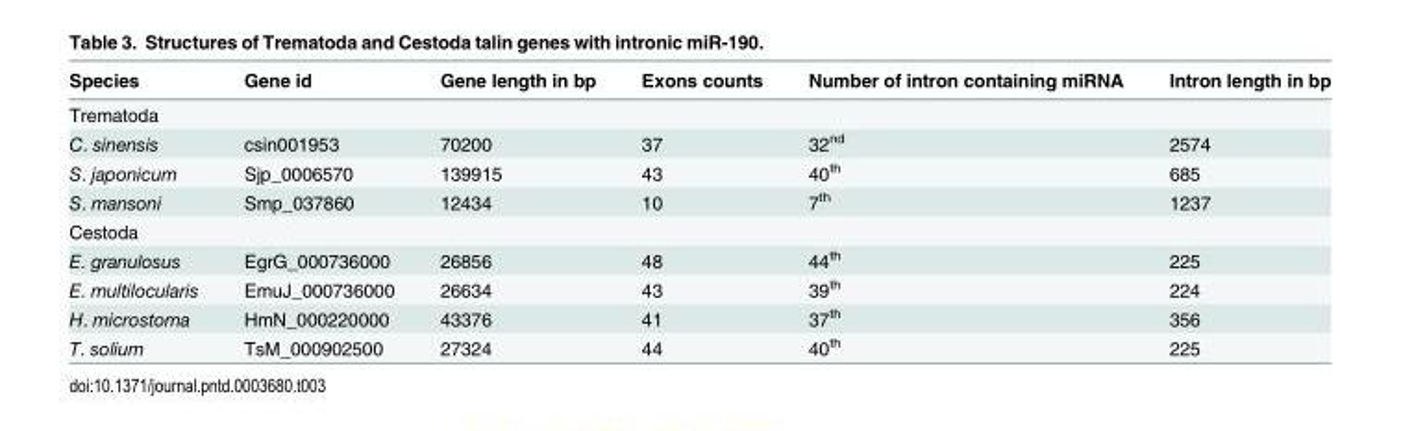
<table><thead><tr><td>Species</td><td>Gene id</td><td>Gene length in bp</td><td>Exons counts</td><td>Number of intron containing miRNA</td><td>Intron length in bp</td></tr></thead><tbody><tr><td colspan="6">Trematoda</td></tr><tr><td>C. sinensis</td><td>csin001953</td><td>70200</td><td>37</td><td>32<sup>nd</sup></td><td>2574</td></tr><tr><td>S. japonicum</td><td>Sjp_0006570</td><td>139915</td><td>43</td><td>40<sup>th</sup></td><td>685</td></tr><tr><td>S. mansoni</td><td>Smp_037860</td><td>12434</td><td>10</td><td>7<sup>th</sup></td><td>1237</td></tr><tr><td colspan="6">Cestoda</td></tr><tr><td>E. granulosus</td><td>EgrG_000736000</td><td>26856</td><td>48</td><td>44<sup>th</sup></td><td>225</td></tr><tr><td>E. multilocularis</td><td>EmuJ_000736000</td><td>26634</td><td>43</td><td>39<sup>th</sup></td><td>224</td></tr><tr><td>H. microstoma</td><td>HmN_000220000</td><td>43376</td><td>41</td><td>37<sup>th</sup></td><td>356</td></tr><tr><td>T. solium</td><td>TsM_000902500</td><td>27324</td><td>44</td><td>40<sup>th</sup></td><td>225</td></tr></tbody></table>